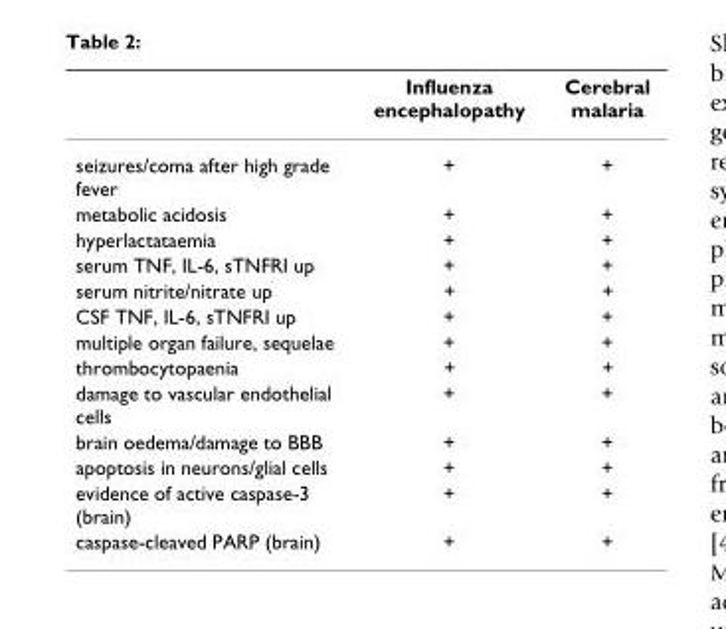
<table><thead><tr><td></td><td>Influenza encephalopathy</td><td>Cerebral malaria</td></tr></thead><tbody><tr><td>seizures/coma after high grade fever</td><td>+</td><td>+</td></tr><tr><td>metabolic acidosis</td><td>+</td><td>+</td></tr><tr><td>hyperlactataemia</td><td>+</td><td>+</td></tr><tr><td>serum TNF, IL-6, sTNFRI up</td><td>+</td><td>+</td></tr><tr><td>serum nitrite/nitrate up</td><td>+</td><td>+</td></tr><tr><td>CSF TNF, IL-6, sTNFRI up</td><td>+</td><td>+</td></tr><tr><td>multiple organ failure, sequelae</td><td>+</td><td>+</td></tr><tr><td>thrombocytopaenia</td><td>+</td><td>+</td></tr><tr><td>damage to vascular endothelial cells</td><td>+</td><td>+</td></tr><tr><td>brain oedema/damage to BBB</td><td>+</td><td>+</td></tr><tr><td>apoptosis in neurons/glial cells</td><td>+</td><td>+</td></tr><tr><td>evidence of active caspase-3 (brain)</td><td>+</td><td>+</td></tr><tr><td>caspase-cleaved PARP (brain)</td><td>+</td><td>+</td></tr></tbody></table>